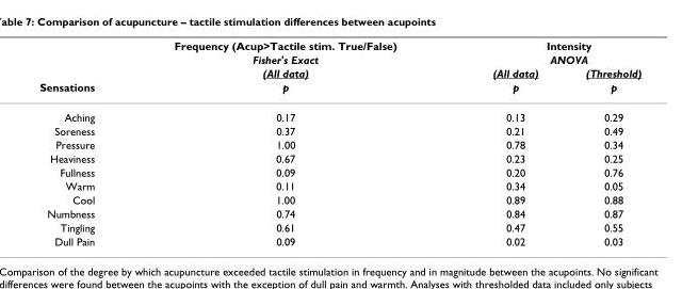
<table><thead><tr><td rowspan="4">Sensations</td><td rowspan="4">Frequency (Acup&gt;Tactile stim. True/False) Fisher&#x27;s Exact (All data) p</td><td rowspan="2" colspan="2">Intensity ANOVA</td></tr><tr></tr><tr><td rowspan="2">(All data) p</td><td rowspan="2">(Threshold) p</td></tr><tr></tr></thead><tbody><tr><td>Aching</td><td>0.17</td><td>0.13</td><td>0.29</td></tr><tr><td>Soreness</td><td>0.37</td><td>0.21</td><td>0.49</td></tr><tr><td>Pressure</td><td>1.00</td><td>0.78</td><td>0.34</td></tr><tr><td>Heaviness</td><td>0.67</td><td>0.23</td><td>0.25</td></tr><tr><td>Fullness</td><td>0.09</td><td>0.20</td><td>0.76</td></tr><tr><td>Warm</td><td>0.11</td><td>0.34</td><td>0.05</td></tr><tr><td>Cool</td><td>1.00</td><td>0.89</td><td>0.88</td></tr><tr><td>Numbness</td><td>0.74</td><td>0.84</td><td>0.87</td></tr><tr><td>Tingling</td><td>0.61</td><td>0.47</td><td>0.55</td></tr><tr><td>Dull Pain</td><td>0.09</td><td>0.02</td><td>0.03</td></tr></tbody></table>